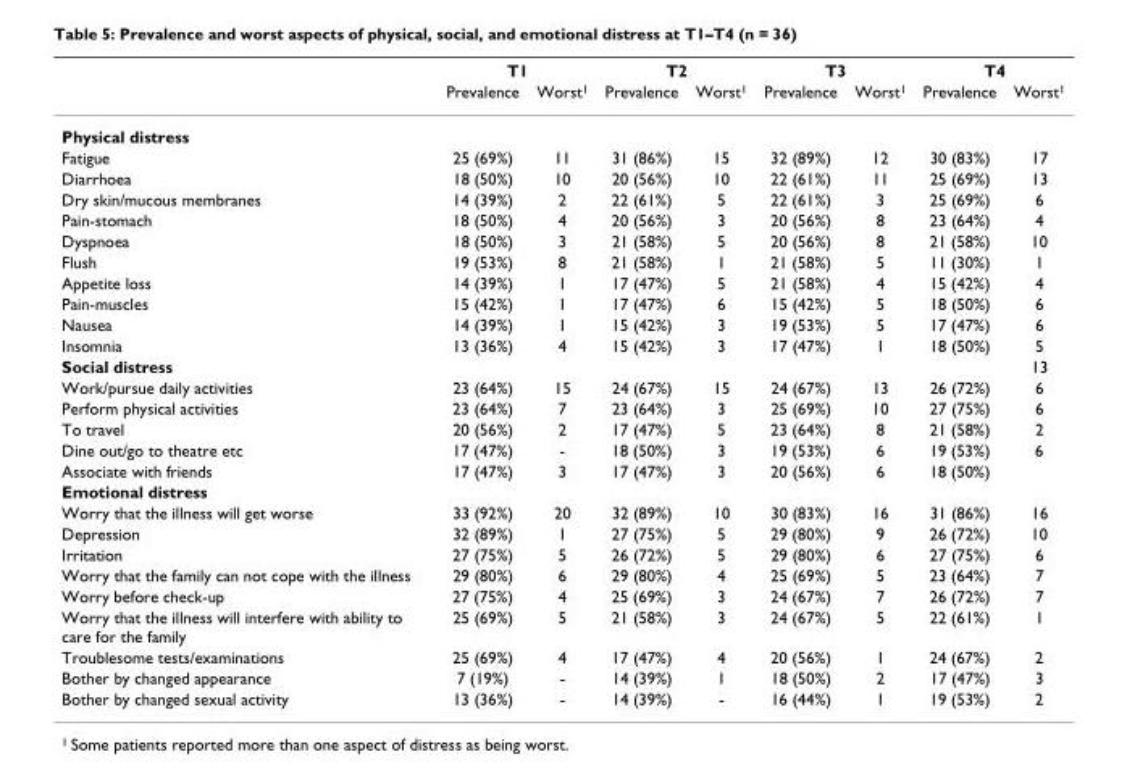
<table><thead><tr><td rowspan="2"></td><td colspan="2">T1</td><td colspan="2">T2</td><td colspan="2">T3</td><td colspan="2">T4</td></tr><tr><td>Prevalence</td><td>Worst<sup>1</sup></td><td>Prevalence</td><td>Worst<sup>1</sup></td><td>Prevalence</td><td>Worst<sup>1</sup></td><td>Prevalence</td><td>Worst<sup>1</sup></td></tr></thead><tbody><tr><td colspan="9">Physical distress</td></tr><tr><td>Fatigue</td><td>25 (69%)</td><td>11</td><td>31 (86%)</td><td>15</td><td>32 (89%)</td><td>12</td><td>30 (83%)</td><td>17</td></tr><tr><td>Diarrhoea</td><td>18 (50%)</td><td>10</td><td>20 (56%)</td><td>10</td><td>22 (61%)</td><td>11</td><td>25 (69%)</td><td>13</td></tr><tr><td>Dry skin/mucous membranes</td><td>14 (39%)</td><td>2</td><td>22 (61%)</td><td>5</td><td>22 (61%)</td><td>3</td><td>25 (69%)</td><td>6</td></tr><tr><td>Pain-stomach</td><td>18 (50%)</td><td>4</td><td>20 (56%)</td><td>3</td><td>20 (56%)</td><td>8</td><td>23 (64%)</td><td>4</td></tr><tr><td>Dyspnoea</td><td>18 (50%)</td><td>3</td><td>21 (58%)</td><td>5</td><td>20 (56%)</td><td>8</td><td>21 (58%)</td><td>10</td></tr><tr><td>Flush</td><td>19 (53%)</td><td>8</td><td>21 (58%)</td><td>1</td><td>21 (58%)</td><td>5</td><td>11 (30%)</td><td>1</td></tr><tr><td>Appetite loss</td><td>14 (39%)</td><td>1</td><td>17 (47%)</td><td>5</td><td>21 (58%)</td><td>4</td><td>15 (42%)</td><td>4</td></tr><tr><td>Pain-muscles</td><td>15 (42%)</td><td>1</td><td>17 (47%)</td><td>6</td><td>15 (42%)</td><td>5</td><td>18 (50%)</td><td>6</td></tr><tr><td>Nausea</td><td>14 (39%)</td><td>1</td><td>15 (42%)</td><td>3</td><td>19 (53%)</td><td>5</td><td>17 (47%)</td><td>6</td></tr><tr><td>Insomnia</td><td>13 (36%)</td><td>4</td><td>15 (42%)</td><td>3</td><td>17 (47%)</td><td>1</td><td>18 (50%)</td><td>5</td></tr><tr><td>Social distress</td><td></td><td></td><td></td><td></td><td></td><td></td><td></td><td>13</td></tr><tr><td>Work/pursue daily activities</td><td>23 (64%)</td><td>15</td><td>24 (67%)</td><td>15</td><td>24 (67%)</td><td>13</td><td>26 (72%)</td><td>6</td></tr><tr><td>Perform physical activities</td><td>23 (64%)</td><td>7</td><td>23 (64%)</td><td>3</td><td>25 (69%)</td><td>10</td><td>27 (75%)</td><td>6</td></tr><tr><td>To travel</td><td>20 (56%)</td><td>2</td><td>17 (47%)</td><td>5</td><td>23 (64%)</td><td>8</td><td>21 (58%)</td><td>2</td></tr><tr><td>Dine out/go to theatre etc</td><td>17 (47%)</td><td>-</td><td>18 (50%)</td><td>3</td><td>19 (53%)</td><td>6</td><td>19 (53%)</td><td>6</td></tr><tr><td>Associate with friends</td><td>17 (47%)</td><td>3</td><td>17 (47%)</td><td>3</td><td>20 (56%)</td><td>6</td><td>18 (50%)</td><td></td></tr><tr><td colspan="9">Emotional distress</td></tr><tr><td>Worry that the illness will get worse</td><td>33 (92%)</td><td>20</td><td>32 (89%)</td><td>10</td><td>30 (83%)</td><td>16</td><td>31 (86%)</td><td>16</td></tr><tr><td>Depression</td><td>32 (89%)</td><td>1</td><td>27 (75%)</td><td>5</td><td>29 (80%)</td><td>9</td><td>26 (72%)</td><td>10</td></tr><tr><td>Irritation</td><td>27 (75%)</td><td>5</td><td>26 (72%)</td><td>5</td><td>29 (80%)</td><td>6</td><td>27 (75%)</td><td>6</td></tr><tr><td>Worry that the family can not cope with the illness</td><td>29 (80%)</td><td>6</td><td>29 (80%)</td><td>4</td><td>25 (69%)</td><td>5</td><td>23 (64%)</td><td>7</td></tr><tr><td>Worry before check-up</td><td>27 (75%)</td><td>4</td><td>25 (69%)</td><td>3</td><td>24 (67%)</td><td>7</td><td>26 (72%)</td><td>7</td></tr><tr><td>Worry that the illness will interfere with ability to care for the family</td><td>25 (69%)</td><td>5</td><td>21 (58%)</td><td>3</td><td>24 (67%)</td><td>5</td><td>22 (61%)</td><td>1</td></tr><tr><td>Troublesome tests/examinations</td><td>25 (69%)</td><td>4</td><td>17 (47%)</td><td>4</td><td>20 (56%)</td><td>1</td><td>24 (67%)</td><td>2</td></tr><tr><td>Bother by changed appearance</td><td>7 (19%)</td><td>-</td><td>14 (39%)</td><td>1</td><td>18 (50%)</td><td>2</td><td>17 (47%)</td><td>3</td></tr><tr><td>Bother by changed sexual activity</td><td>13 (36%)</td><td>-</td><td>14 (39%)</td><td>-</td><td>16 (44%)</td><td>1</td><td>19 (53%)</td><td>2</td></tr></tbody></table>